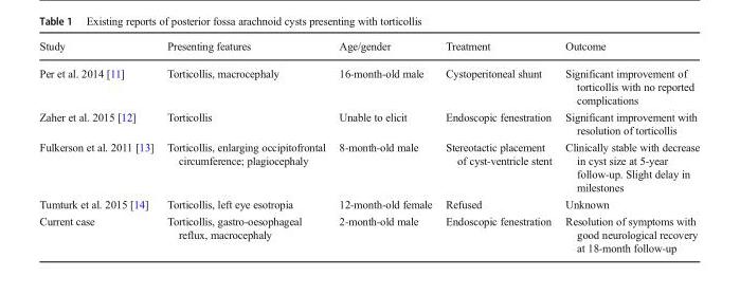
<table><thead><tr><td>Study</td><td>Presenting features</td><td>Age/gender</td><td>Treatment</td><td>Outcome</td></tr></thead><tbody><tr><td>Per et al. 2014 [11]</td><td>Torticollis, macrocephaly</td><td>16-month-old male</td><td>Cystoperitoneal shunt</td><td>Significant improvement of torticollis with no reported complications</td></tr><tr><td>Zaher et al. 2015 [12]</td><td>Torticollis</td><td>Unable to elicit</td><td>Endoscopic fenestration</td><td>Significant improvement with resolution of torticollis</td></tr><tr><td>Fulkerson et al. 2011 [13]</td><td>Torticollis, enlarging occipitofrontal circumference; plagiocephaly</td><td>8-month-old male</td><td>Stereotactic placement of cyst-ventricle stent</td><td>Clinically stable with decrease in cyst size at 5-year follow-up. Slight delay in milestones</td></tr><tr><td>Tumturk et al. 2015 [14]</td><td>Torticollis, left eye esotropia</td><td>12-month-old female</td><td>Refused</td><td>Unknown</td></tr><tr><td>Current case</td><td>Torticollis, gastro-oesophageal reflux, macrocephaly</td><td>2-month-old male</td><td>Endoscopic fenestration</td><td>Resolution of symptoms with good neurological recovery at 18-month follow-up</td></tr></tbody></table>